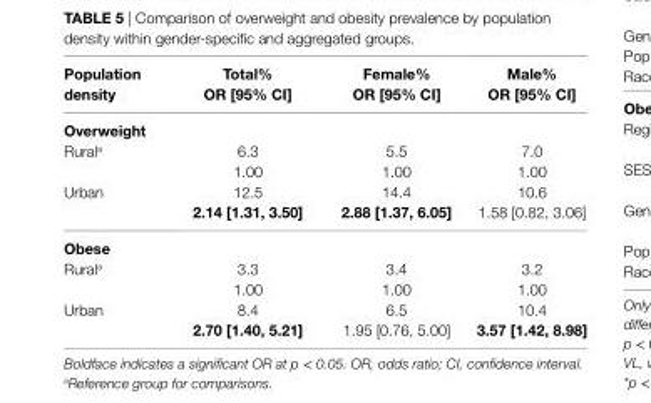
<table><thead><tr><td>Population density</td><td>Total% Or [95% ci]</td><td>Female% Or [95% ci]</td><td>Male% Or [95% ci]</td></tr></thead><tbody><tr><td colspan="4">Overweight</td></tr><tr><td>Rural<sup>a</sup></td><td>6.3 1.00</td><td>5.5 1.00</td><td>7.0 1.00</td></tr><tr><td>Urban</td><td>12.5 2.14 [1.31, 3.50]</td><td>14.4 2.88 [1.37, 6.05]</td><td>10.6 1.58 [0.82, 3.06]</td></tr><tr><td colspan="4">Obese</td></tr><tr><td>Rural<sup>a</sup></td><td>3.3 1.00</td><td>3.4 1.00</td><td>3.2 1.00</td></tr><tr><td>Urban</td><td>8.4 2.70 [1.40, 5.21]</td><td>6.5 1.95 [0.76, 5.00]</td><td>10.4 3.57 [1.42, 8.98]</td></tr></tbody></table>